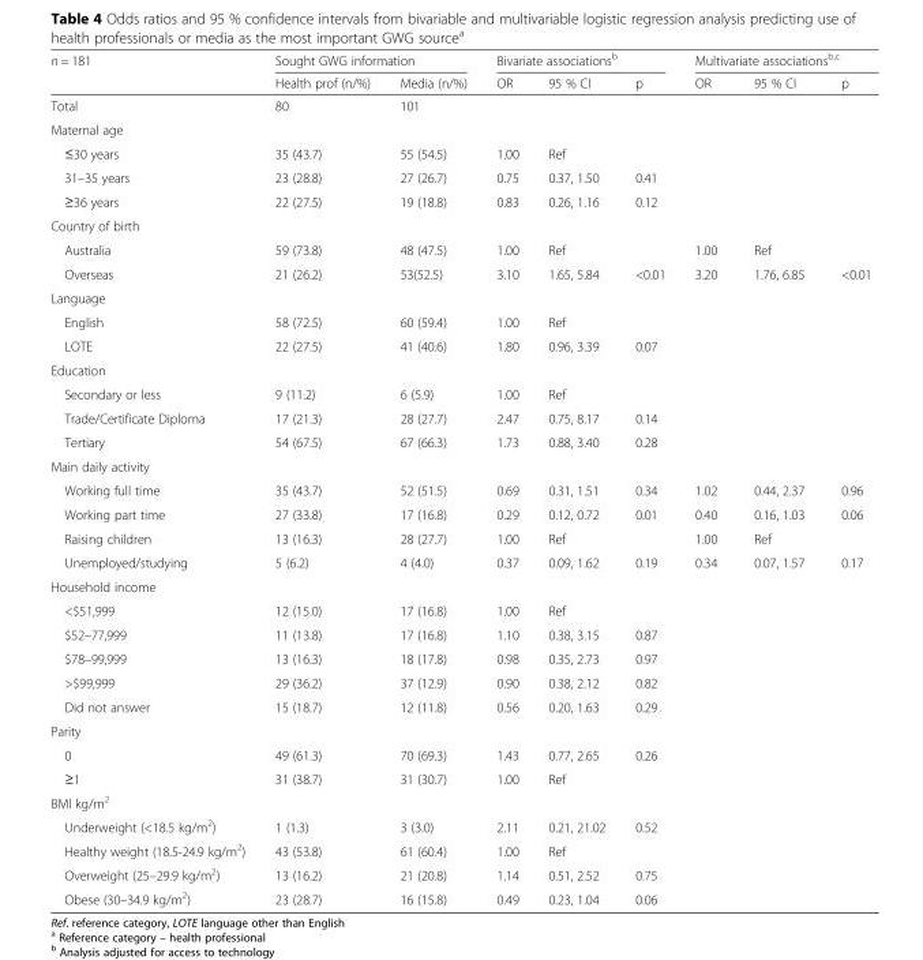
<table><thead><tr><td rowspan="2">n = 181</td><td colspan="2">Sought GWG information</td><td colspan="3">Bivariate associations<sup>b</sup></td><td colspan="3">Multivariate associations<sup>b,c</sup></td></tr><tr><td>Health prof (n/%)</td><td>Media (n/%)</td><td>OR</td><td>95 % CI</td><td>p</td><td>OR</td><td>95 % CI</td><td>p</td></tr></thead><tbody><tr><td>Total</td><td>80</td><td>101</td><td></td><td></td><td></td><td></td><td></td><td></td></tr><tr><td colspan="9">Maternal age</td></tr><tr><td>≤30 years</td><td>35 (43.7)</td><td>55 (54.5)</td><td>1.00</td><td>Ref</td><td></td><td></td><td></td><td></td></tr><tr><td>31–35 years</td><td>23 (28.8)</td><td>27 (26.7)</td><td>0.75</td><td>0.37, 1.50</td><td>0.41</td><td></td><td></td><td></td></tr><tr><td>≥36 years</td><td>22 (27.5)</td><td>19 (18.8)</td><td>0.83</td><td>0.26, 1.16</td><td>0.12</td><td></td><td></td><td></td></tr><tr><td colspan="9">Country of birth</td></tr><tr><td>Australia</td><td>59 (73.8)</td><td>48 (47.5)</td><td>1.00</td><td>Ref</td><td></td><td>1.00</td><td>Ref</td><td></td></tr><tr><td>Overseas</td><td>21 (26.2)</td><td>53(52.5)</td><td>3.10</td><td>1.65, 5.84</td><td>&lt;0.01</td><td>3.20</td><td>1.76, 6.85</td><td>&lt;0.01</td></tr><tr><td colspan="9">Language</td></tr><tr><td>English</td><td>58 (72.5)</td><td>60 (59.4)</td><td>1.00</td><td>Ref</td><td></td><td></td><td></td><td></td></tr><tr><td>LOTE</td><td>22 (27.5)</td><td>41 (40.6)</td><td>1.80</td><td>0.96, 3.39</td><td>0.07</td><td></td><td></td><td></td></tr><tr><td colspan="9">Education</td></tr><tr><td>Secondary or less</td><td>9 (11.2)</td><td>6 (5.9)</td><td>1.00</td><td>Ref</td><td></td><td></td><td></td><td></td></tr><tr><td>Trade/Certificate Diploma</td><td>17 (21.3)</td><td>28 (27.7)</td><td>2.47</td><td>0.75, 8.17</td><td>0.14</td><td></td><td></td><td></td></tr><tr><td>Tertiary</td><td>54 (67.5)</td><td>67 (66.3)</td><td>1.73</td><td>0.88, 3.40</td><td>0.28</td><td></td><td></td><td></td></tr><tr><td colspan="9">Main daily activity</td></tr><tr><td>Working full time</td><td>35 (43.7)</td><td>52 (51.5)</td><td>0.69</td><td>0.31, 1.51</td><td>0.34</td><td>1.02</td><td>0.44, 2.37</td><td>0.96</td></tr><tr><td>Working part time</td><td>27 (33.8)</td><td>17 (16.8)</td><td>0.29</td><td>0.12, 0.72</td><td>0.01</td><td>0.40</td><td>0.16, 1.03</td><td>0.06</td></tr><tr><td>Raising children</td><td>13 (16.3)</td><td>28 (27.7)</td><td>1.00</td><td>Ref</td><td></td><td>1.00</td><td>Ref</td><td></td></tr><tr><td>Unemployed/studying</td><td>5 (6.2)</td><td>4 (4.0)</td><td>0.37</td><td>0.09, 1.62</td><td>0.19</td><td>0.34</td><td>0.07, 1.57</td><td>0.17</td></tr><tr><td colspan="9">Household income</td></tr><tr><td>&lt;$51,999</td><td>12 (15.0)</td><td>17 (16.8)</td><td>1.00</td><td>Ref</td><td></td><td></td><td></td><td></td></tr><tr><td>$52–77,999</td><td>11 (13.8)</td><td>17 (16.8)</td><td>1.10</td><td>0.38, 3.15</td><td>0.87</td><td></td><td></td><td></td></tr><tr><td>$78–99,999</td><td>13 (16.3)</td><td>18 (17.8)</td><td>0.98</td><td>0.35, 2.73</td><td>0.97</td><td></td><td></td><td></td></tr><tr><td>&gt;$99,999</td><td>29 (36.2)</td><td>37 (12.9)</td><td>0.90</td><td>0.38, 2.12</td><td>0.82</td><td></td><td></td><td></td></tr><tr><td>Did not answer</td><td>15 (18.7)</td><td>12 (11.8)</td><td>0.56</td><td>0.20, 1.63</td><td>0.29</td><td></td><td></td><td></td></tr><tr><td colspan="9">Parity</td></tr><tr><td>0</td><td>49 (61.3)</td><td>70 (69.3)</td><td>1.43</td><td>0.77, 2.65</td><td>0.26</td><td></td><td></td><td></td></tr><tr><td>≥1</td><td>31 (38.7)</td><td>31 (30.7)</td><td>1.00</td><td>Ref</td><td></td><td></td><td></td><td></td></tr><tr><td colspan="9">BMI kg/m<sup>2</sup></td></tr><tr><td>Underweight (&lt;18.5 kg/m<sup>2</sup>)</td><td>1 (1.3)</td><td>3 (3.0)</td><td>2.11</td><td>0.21, 21.02</td><td>0.52</td><td></td><td></td><td></td></tr><tr><td>Healthy weight (18.5-24.9 kg/m<sup>2</sup>)</td><td>43 (53.8)</td><td>61 (60.4)</td><td>1.00</td><td>Ref</td><td></td><td></td><td></td><td></td></tr><tr><td>Overweight (25–29.9 kg/m<sup>2</sup>)</td><td>13 (16.2)</td><td>21 (20.8)</td><td>1.14</td><td>0.51, 2.52</td><td>0.75</td><td></td><td></td><td></td></tr><tr><td>Obese (30–34.9 kg/m<sup>2</sup>)</td><td>23 (28.7)</td><td>16 (15.8)</td><td>0.49</td><td>0.23, 1.04</td><td>0.06</td><td></td><td></td><td></td></tr></tbody></table>